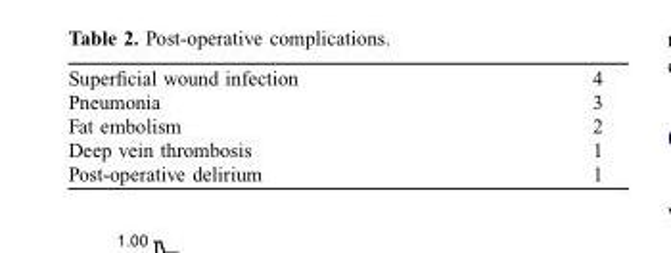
<table><tbody><tr><td>Superficial wound infection</td><td>4</td></tr><tr><td>Pneumonia</td><td>3</td></tr><tr><td>Fat embolism</td><td>2</td></tr><tr><td>Deep vein thrombosis</td><td>1</td></tr><tr><td>Post-operative delirium</td><td>1</td></tr></tbody></table>